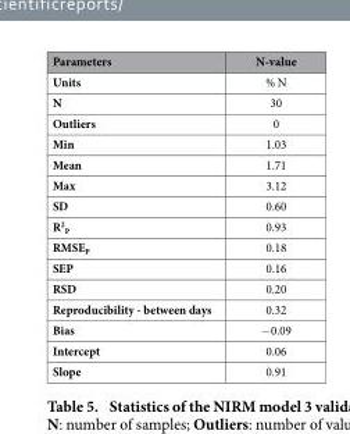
<table><thead><tr><td>Parameters</td><td>N-value</td></tr></thead><tbody><tr><td>Units</td><td>% N</td></tr><tr><td>N</td><td>30</td></tr><tr><td>Outliers</td><td>0</td></tr><tr><td>Min</td><td>1.03</td></tr><tr><td>Mean</td><td>1.71</td></tr><tr><td>Max</td><td>3.12</td></tr><tr><td>SD</td><td>0.60</td></tr><tr><td>R<sup>2</sup> <sub>P</sub></td><td>0.93</td></tr><tr><td>RMSE<sub>P</sub></td><td>0.18</td></tr><tr><td>SEP</td><td>0.16</td></tr><tr><td>RSD</td><td>0.20</td></tr><tr><td>Reproducibility - between days</td><td>0.32</td></tr><tr><td>Bias</td><td>− 0.09</td></tr><tr><td>Intercept</td><td>0.06</td></tr><tr><td>Slope</td><td>0.91</td></tr></tbody></table>